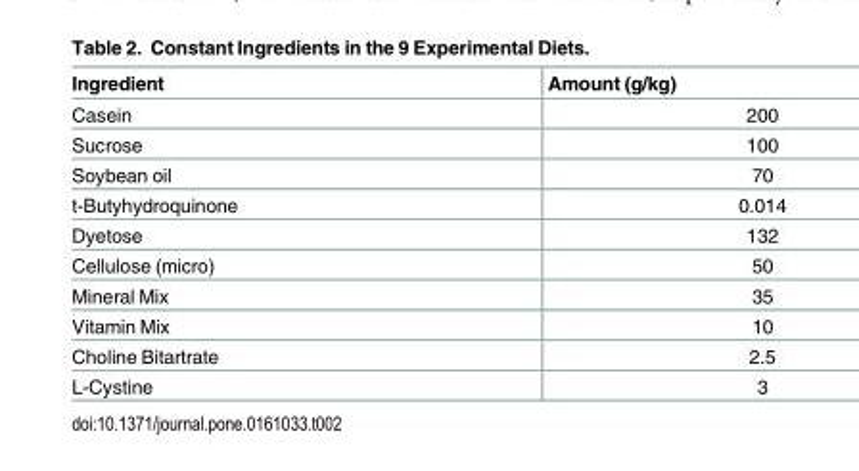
<table><thead><tr><td>Ingredient</td><td>Amount (g/kg)</td></tr></thead><tbody><tr><td>Casein</td><td>200</td></tr><tr><td>Sucrose</td><td>100</td></tr><tr><td>Soybean oil</td><td>70</td></tr><tr><td>t-Butyhydroquinone</td><td>0.014</td></tr><tr><td>Dyetose</td><td>132</td></tr><tr><td>Cellulose (micro)</td><td>50</td></tr><tr><td>Mineral Mix</td><td>35</td></tr><tr><td>Vitamin Mix</td><td>10</td></tr><tr><td>Choline Bitartrate</td><td>2.5</td></tr><tr><td>L-Cystine</td><td>3</td></tr></tbody></table>